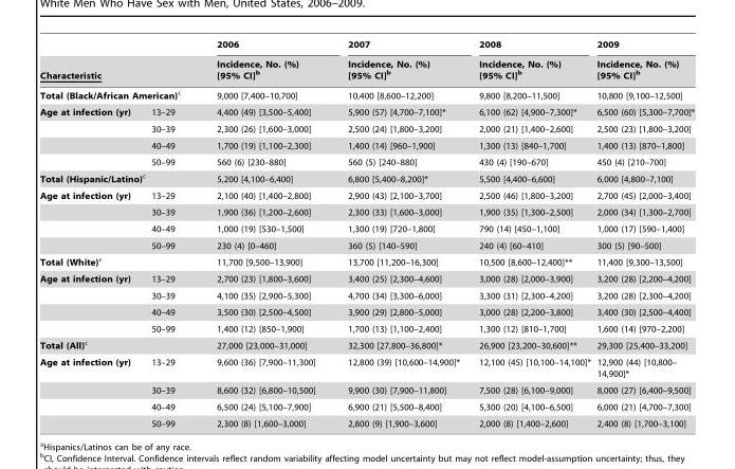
<table><thead><tr><td></td><td></td><td rowspan="2">2006 Incidence, No. (%) [95% CI]<sup>b</sup></td><td rowspan="2">2007 Incidence, No. (%) [95% CI]<sup>b</sup></td><td rowspan="2">2008 Incidence, No. (%) [95% CI]<sup>b</sup></td><td rowspan="2">2009 Incidence, No. (%) [95% CI]<sup>b</sup></td></tr><tr><td colspan="2">Characteristic</td></tr></thead><tbody><tr><td colspan="2">Total (Black/African American)c</td><td>9,000 [7,400–10,700]</td><td>10,400 [8,600–12,200]</td><td>9,800 [8,200–11,500]</td><td>10,800 [9,100–12,500]</td></tr><tr><td rowspan="4">Age at infection (yr)</td><td>13–29</td><td>4,400 (49) [3,500–5,400]</td><td>5,900 (57) [4,700–7,100]*</td><td>6,100 (62) [4,900–7,300]*</td><td>6,500 (60) [5,300–7,700]*</td></tr><tr><td>30–39</td><td>2,300 (26) [1,600–3,000]</td><td>2,500 (24) [1,800–3,200]</td><td>2,000 (21) [1,400–2,600]</td><td>2,500 (23) [1,800–3,200]</td></tr><tr><td>40–49</td><td>1,700 (19) [1,100–2,300]</td><td>1,400 (14) [960–1,900]</td><td>1,300 (13) [840–1,700]</td><td>1,400 (13) [870–1,800]</td></tr><tr><td>50–99</td><td>560 (6) [230–880]</td><td>560 (5) [240–880]</td><td>430 (4) [190–670]</td><td>450 (4) [210–700]</td></tr><tr><td colspan="2">Total (Hispanic/Latino)c</td><td>5,200 [4,100–6,400]</td><td>6,800 [5,400–8,200]*</td><td>5,500 [4,400–6,600]</td><td>6,000 [4,800–7,100]</td></tr><tr><td rowspan="4">Age at infection (yr)</td><td>13–29</td><td>2,100 (40) [1,400–2,800]</td><td>2,900 (43) [2,100–3,700]</td><td>2,500 (46) [1,800–3,200]</td><td>2,700 (45) [2,000–3,400]</td></tr><tr><td>30–39</td><td>1,900 (36) [1,200–2,600]</td><td>2,300 (33) [1,600–3,000]</td><td>1,900 (35) [1,300–2,500]</td><td>2,000 (34) [1,300–2,700]</td></tr><tr><td>40–49</td><td>1,000 (19) [530–1,500]</td><td>1,300 (19) [720–1,800]</td><td>790 (14) [450–1,100]</td><td>1,000 (17) [590–1,400]</td></tr><tr><td>50–99</td><td>230 (4) [0–460]</td><td>360 (5) [140–590]</td><td>240 (4) [60–410]</td><td>300 (5) [90–500]</td></tr><tr><td colspan="2">Total (White)c</td><td>11,700 [9,500–13,900]</td><td>13,700 [11,200–16,300]</td><td>10,500 [8,600–12,400]**</td><td>11,400 [9,300–13,500]</td></tr><tr><td rowspan="4">Age at infection (yr)</td><td>13–29</td><td>2,700 (23) [1,800–3,600]</td><td>3,400 (25) [2,300–4,600]</td><td>3,000 (28) [2,000–3,900]</td><td>3,200 (28) [2,200–4,200]</td></tr><tr><td>30–39</td><td>4,100 (35) [2,900–5,300]</td><td>4,700 (34) [3,300–6,000]</td><td>3,300 (31) [2,300–4,200]</td><td>3,200 (28) [2,300–4,200]</td></tr><tr><td>40–49</td><td>3,500 (30) [2,500–4,500]</td><td>3,900 (29) [2,800–5,000]</td><td>3,000 (28) [2,200–3,800]</td><td>3,400 (30) [2,500–4,400]</td></tr><tr><td>50–99</td><td>1,400 (12) [850–1,900]</td><td>1,700 (13) [1,100–2,400]</td><td>1,300 (12) [810–1,700]</td><td>1,600 (14) [970–2,200]</td></tr><tr><td colspan="2">Total (All)c</td><td>27,000 [23,000–31,000]</td><td>32,300 [27,800–36,800]*</td><td>26,900 [23,200–30,600]**</td><td>29,300 [25,400–33,200]</td></tr><tr><td rowspan="4">Age at infection (yr)</td><td>13–29</td><td>9,600 (36) [7,900–11,300]</td><td>12,800 (39) [10,600–14,900]*</td><td>12,100 (45) [10,100–14,100]*</td><td>12,900 (44) [10,800– 14,900]*</td></tr><tr><td>30–39</td><td>8,600 (32) [6,800–10,500]</td><td>9,900 (30) [7,900–11,800]</td><td>7,500 (28) [6,100–9,000]</td><td>8,000 (27) [6,400–9,500]</td></tr><tr><td>40–49</td><td>6,500 (24) [5,100–7,900]</td><td>6,900 (21) [5,500–8,400]</td><td>5,300 (20) [4,100–6,500]</td><td>6,000 (21) [4,700–7,300]</td></tr><tr><td>50–99</td><td>2,300 (8) [1,600–3,000]</td><td>2,800 (9) [1,900–3,600]</td><td>2,000 (8) [1,400–2,600]</td><td>2,400 (8) [1,700–3,100]</td></tr></tbody></table>